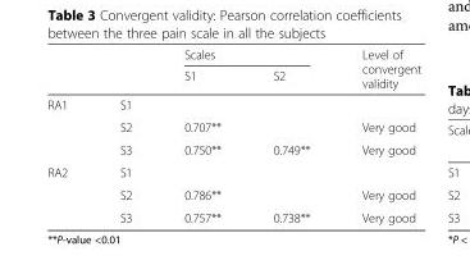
<table><thead><tr><td rowspan="2"></td><td rowspan="2"></td><td colspan="2">Scales</td><td rowspan="2">Level of convergent validity</td></tr><tr><td>S1</td><td>S2</td></tr></thead><tbody><tr><td rowspan="3">RA1</td><td>S1</td><td></td><td></td><td></td></tr><tr><td>S2</td><td>0.707**</td><td></td><td>Very good</td></tr><tr><td>S3</td><td>0.750**</td><td>0.749**</td><td>Very good</td></tr><tr><td rowspan="3">RA2</td><td>S1</td><td></td><td></td><td></td></tr><tr><td>S2</td><td>0.786**</td><td></td><td>Very good</td></tr><tr><td>S3</td><td>0.757**</td><td>0.738**</td><td>Very good</td></tr></tbody></table>